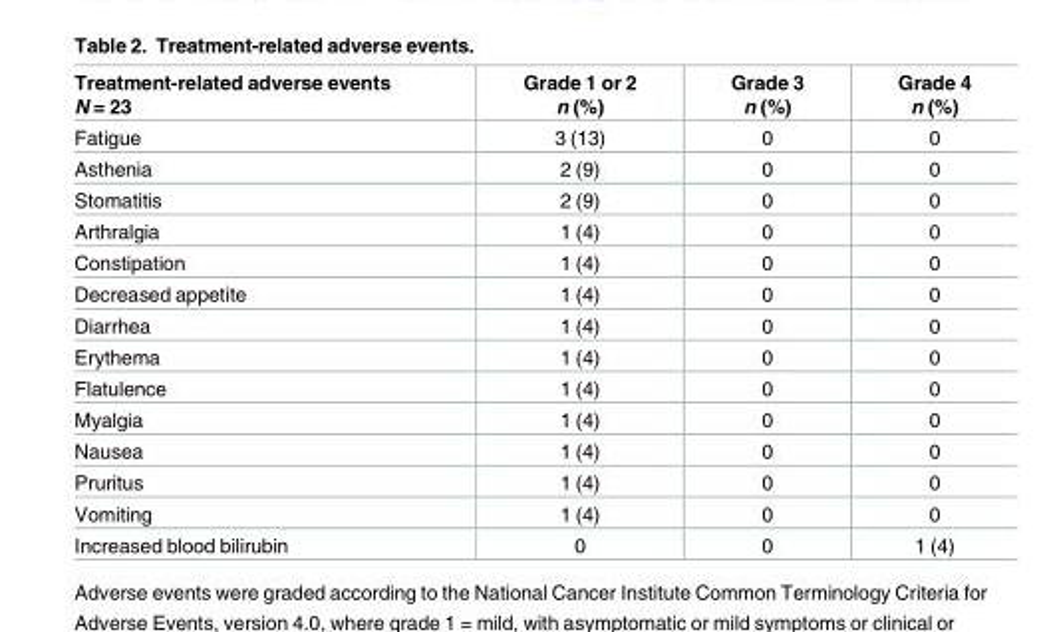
<table><thead><tr><td>Treatment-related adverse events N = 23</td><td>Grade 1 or 2 n (%)</td><td>Grade 3 n (%)</td><td>Grade 4 n (%)</td></tr></thead><tbody><tr><td>Fatigue</td><td>3 (13)</td><td>0</td><td>0</td></tr><tr><td>Asthenia</td><td>2 (9)</td><td>0</td><td>0</td></tr><tr><td>Stomatitis</td><td>2 (9)</td><td>0</td><td>0</td></tr><tr><td>Arthralgia</td><td>1 (4)</td><td>0</td><td>0</td></tr><tr><td>Constipation</td><td>1 (4)</td><td>0</td><td>0</td></tr><tr><td>Decreased appetite</td><td>1 (4)</td><td>0</td><td>0</td></tr><tr><td>Diarrhea</td><td>1 (4)</td><td>0</td><td>0</td></tr><tr><td>Erythema</td><td>1 (4)</td><td>0</td><td>0</td></tr><tr><td>Flatulence</td><td>1 (4)</td><td>0</td><td>0</td></tr><tr><td>Myalgia</td><td>1 (4)</td><td>0</td><td>0</td></tr><tr><td>Nausea</td><td>1 (4)</td><td>0</td><td>0</td></tr><tr><td>Pruritus</td><td>1 (4)</td><td>0</td><td>0</td></tr><tr><td>Vomiting</td><td>1 (4)</td><td>0</td><td>0</td></tr><tr><td>Increased blood bilirubin</td><td>0</td><td>0</td><td>1 (4)</td></tr></tbody></table>